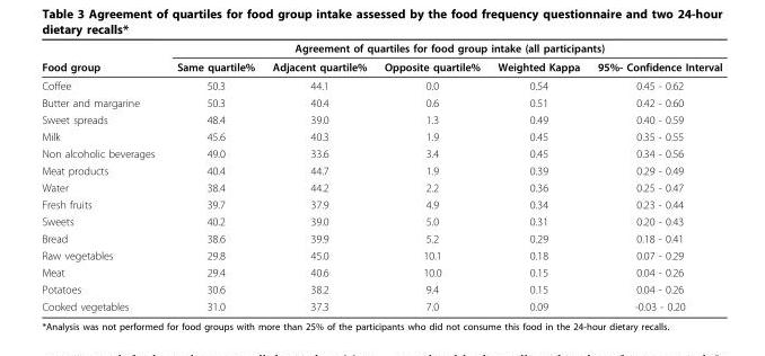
<table><thead><tr><td rowspan="2">Food group</td><td colspan="5">Agreement of quartiles for food group intake (all participants)</td></tr><tr><td>Same quartile%</td><td>Adjacent quartile%</td><td>Opposite quartile%</td><td>Weighted Kappa</td><td>95%- Confidence Interval</td></tr></thead><tbody><tr><td>Coffee</td><td>50.3</td><td>44.1</td><td>0.0</td><td>0.54</td><td>0.45 - 0.62</td></tr><tr><td>Butter and margarine</td><td>50.3</td><td>40.4</td><td>0.6</td><td>0.51</td><td>0.42 - 0.60</td></tr><tr><td>Sweet spreads</td><td>48.4</td><td>39.0</td><td>1.3</td><td>0.49</td><td>0.40 - 0.59</td></tr><tr><td>Milk</td><td>45.6</td><td>40.3</td><td>1.9</td><td>0.45</td><td>0.35 - 0.55</td></tr><tr><td>Non alcoholic beverages</td><td>49.0</td><td>33.6</td><td>3.4</td><td>0.45</td><td>0.34 - 0.56</td></tr><tr><td>Meat products</td><td>40.4</td><td>44.7</td><td>1.9</td><td>0.39</td><td>0.29 - 0.49</td></tr><tr><td>Water</td><td>38.4</td><td>44.2</td><td>2.2</td><td>0.36</td><td>0.25 - 0.47</td></tr><tr><td>Fresh fruits</td><td>39.7</td><td>37.9</td><td>4.9</td><td>0.34</td><td>0.23 - 0.44</td></tr><tr><td>Sweets</td><td>40.2</td><td>39.0</td><td>5.0</td><td>0.31</td><td>0.20 - 0.43</td></tr><tr><td>Bread</td><td>38.6</td><td>39.9</td><td>5.2</td><td>0.29</td><td>0.18 - 0.41</td></tr><tr><td>Raw vegetables</td><td>29.8</td><td>45.0</td><td>10.1</td><td>0.18</td><td>0.07 - 0.29</td></tr><tr><td>Meat</td><td>29.4</td><td>40.6</td><td>10.0</td><td>0.15</td><td>0.04 - 0.26</td></tr><tr><td>Potatoes</td><td>30.6</td><td>38.2</td><td>9.4</td><td>0.15</td><td>0.04 - 0.26</td></tr><tr><td>Cooked vegetables</td><td>31.0</td><td>37.3</td><td>7.0</td><td>0.09</td><td>-0.03 - 0.20</td></tr></tbody></table>